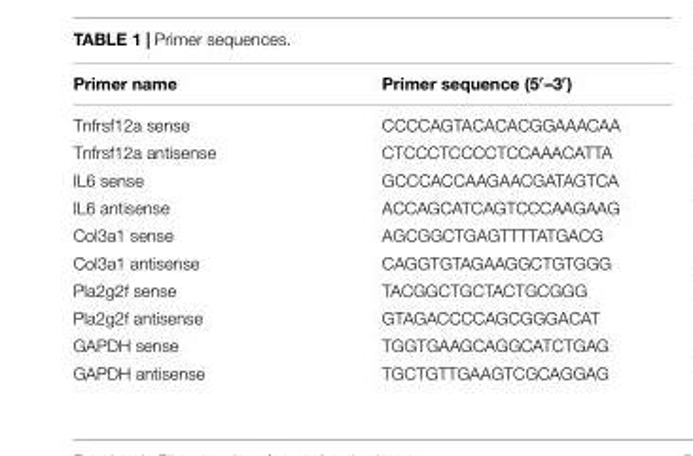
<table><thead><tr><td>Primer name</td><td>Primer sequence (5′–3′)</td></tr></thead><tbody><tr><td>Tnfrsf12a sense</td><td>CCCCAGTACACACGGAAACAA</td></tr><tr><td>Tnfrsf12a antisense</td><td>CTCCCTCCCCTCCAAACATTA</td></tr><tr><td>IL6 sense</td><td>GCCCACCAAGAACGATAGTCA</td></tr><tr><td>IL6 antisense</td><td>ACCAGCATCAGTCCCAAGAAG</td></tr><tr><td>Col3a1 sense</td><td>AGCGGCTGAGTTTTATGACG</td></tr><tr><td>Col3a1 antisense</td><td>CAGGTGTAGAAGGCTGTGGG</td></tr><tr><td>Pla2g2f sense</td><td>TACGGCTGCTACTGCGGG</td></tr><tr><td>Pla2g2f antisense</td><td>GTAGACCCCAGCGGGACAT</td></tr><tr><td>GAPDH sense</td><td>TGGTGAAGCAGGCATCTGAG</td></tr><tr><td>GAPDH antisense</td><td>TGCTGTTGAAGTCGCAGGAG</td></tr></tbody></table>